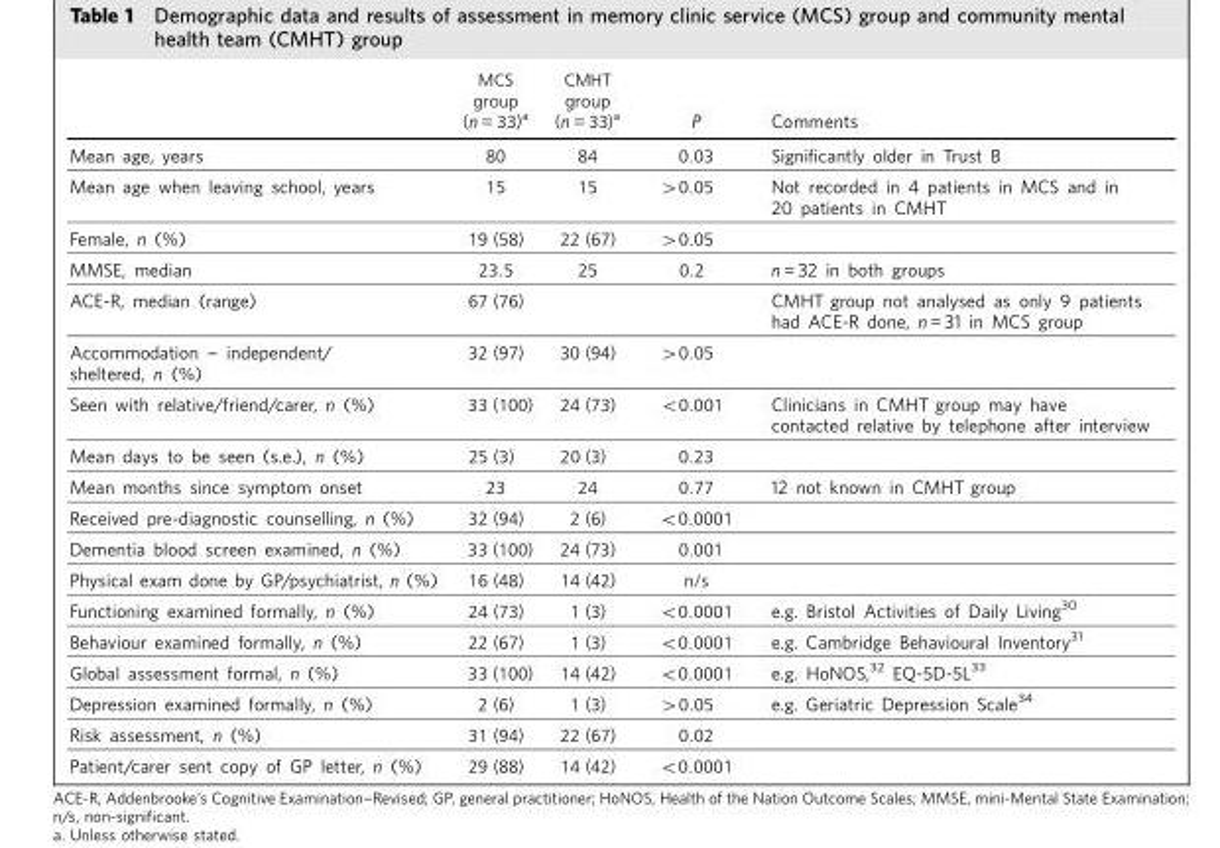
<table><thead><tr><td></td><td>MCS group (n = 33)<sup>a</sup></td><td>CMHT group (n = 33)<sup>a</sup></td><td>P</td><td>Comments</td></tr></thead><tbody><tr><td>Mean age, years</td><td>80</td><td>84</td><td>0.03</td><td>Significantly older in Trust B</td></tr><tr><td>Mean age when leaving school, years</td><td>15</td><td>15</td><td>40.05</td><td>Not recorded in 4 patients in MCS and in 20 patients in CMHT</td></tr><tr><td>Female, n (%)</td><td>19 (58)</td><td>22 (67)</td><td>40.05</td><td></td></tr><tr><td>MMSE, median</td><td>23.5</td><td>25</td><td>0.2</td><td>n = 32 in both groups</td></tr><tr><td>ACE-R, median (range)</td><td>67 (76)</td><td></td><td></td><td>CMHT group not analysed as only 9 patients had ACE-R done, n = 31 in MCS group</td></tr><tr><td>Accommodation - independent/ sheltered, n (%)</td><td>32 (97)</td><td>30 (94)</td><td>40.05</td><td></td></tr><tr><td>Seen with relative/friend/carer, n (%)</td><td>33 (100)</td><td>24 (73)</td><td>&lt;0.001</td><td>Clinicians in CMHT group may have contacted relative by telephone after interview</td></tr><tr><td>Mean days to be seen (s.e.), n (%)</td><td>25 (3)</td><td>20 (3)</td><td>0.23</td><td></td></tr><tr><td>Mean months since symptom onset</td><td>23</td><td>24</td><td>0.77</td><td>12 not known in CMHT group</td></tr><tr><td>Received pre-diagnostic counselling, n (%)</td><td>32 (94)</td><td>2 (6)</td><td>&lt;0.0001</td><td></td></tr><tr><td>Dementia blood screen examined, n (%)</td><td>33 (100)</td><td>24 (73)</td><td>0.001</td><td></td></tr><tr><td>Physical exam done by GP/psychiatrist, n (%)</td><td>16 (48)</td><td>14 (42)</td><td>n/s</td><td></td></tr><tr><td>Functioning examined formally, n (%)</td><td>24 (73)</td><td>1 (3)</td><td>&lt;0.0001</td><td>e.g. Bristol Activities of Daily Living<sup>30</sup></td></tr><tr><td>Behaviour examined formally, n (%)</td><td>22 (67)</td><td>1 (3)</td><td>&lt;0.0001</td><td>e.g. Cambridge Behavioural Inventory<sup>31</sup></td></tr><tr><td>Global assessment formal, n (%)</td><td>33 (100)</td><td>14 (42)</td><td>&lt;0.0001</td><td>e.g. HoNOS,<sup>32</sup> EQ-5D-5L<sup>33</sup></td></tr><tr><td>Depression examined formally, n (%)</td><td>2 (6)</td><td>1 (3)</td><td>&gt;0.05</td><td>e.g. Geriatric Depression Scale<sup>34</sup></td></tr><tr><td>Risk assessment, n (%)</td><td>31 (94)</td><td>22 (67)</td><td>0.02</td><td></td></tr><tr><td>Patient/carer sent copy of GP letter, n (%)</td><td>29 (88)</td><td>14 (42)</td><td>&lt;0.0001</td><td></td></tr></tbody></table>